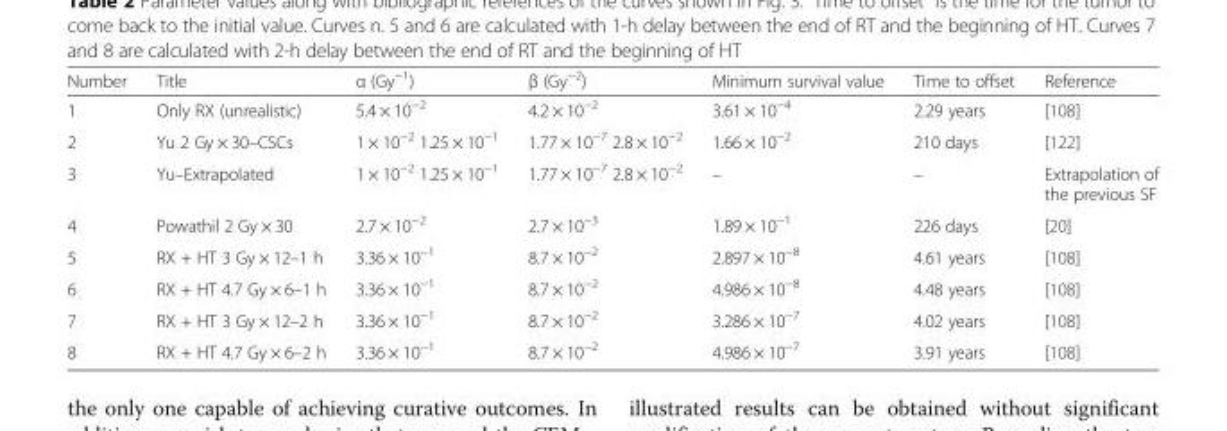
<table><thead><tr><td>Number</td><td>Title</td><td>α (Gy<sup>−1</sup>)</td><td>β (Gy<sup>−2</sup>)</td><td>Minimum survival value</td><td>Time to offset</td><td>Reference</td></tr></thead><tbody><tr><td>1</td><td>Only RX (unrealistic)</td><td>5.4 × 10<sup>−2</sup></td><td>4.2 × 10<sup>−2</sup></td><td>3.61 × 10<sup>−4</sup></td><td>2.29 years</td><td>[108]</td></tr><tr><td>2</td><td>Yu 2 Gy × 30–CSCs</td><td>1 × 10<sup>−2</sup> 1.25 × 10<sup>−1</sup></td><td>1.77 × 10<sup>−7</sup> 2.8 × 10<sup>−2</sup></td><td>1.66 × 10<sup>−2</sup></td><td>210 days</td><td>[122]</td></tr><tr><td>3</td><td>Yu–Extrapolated</td><td>1 × 10<sup>−2</sup> 1.25 × 10<sup>−1</sup></td><td>1.77 × 10<sup>−7</sup> 2.8 × 10<sup>−2</sup></td><td>–</td><td>–</td><td>Extrapolation of the previous SF</td></tr><tr><td>4</td><td>Powathil 2 Gy × 30</td><td>2.7 × 10<sup>−2</sup></td><td>2.7 × 10<sup>−3</sup></td><td>1.89 × 10<sup>−1</sup></td><td>226 days</td><td>[20]</td></tr><tr><td>5</td><td>RX + HT 3 Gy × 12–1 h</td><td>3.36 × 10<sup>−1</sup></td><td>8.7 × 10<sup>−2</sup></td><td>2.897 × 10<sup>−8</sup></td><td>4.61 years</td><td>[108]</td></tr><tr><td>6</td><td>RX + HT 4.7 Gy × 6–1 h</td><td>3.36 × 10<sup>−1</sup></td><td>8.7 × 10<sup>−2</sup></td><td>4.986 × 10<sup>−8</sup></td><td>4.48 years</td><td>[108]</td></tr><tr><td>7</td><td>RX + HT 3 Gy × 12–2 h</td><td>3.36 × 10<sup>−1</sup></td><td>8.7 × 10<sup>−2</sup></td><td>3.286 × 10<sup>−7</sup></td><td>4.02 years</td><td>[108]</td></tr><tr><td>8</td><td>RX + HT 4.7 Gy × 6–2 h</td><td>3.36 × 10<sup>−1</sup></td><td>8.7 × 10<sup>−2</sup></td><td>4.986 × 10<sup>−7</sup></td><td>3.91 years</td><td>[108]</td></tr></tbody></table>